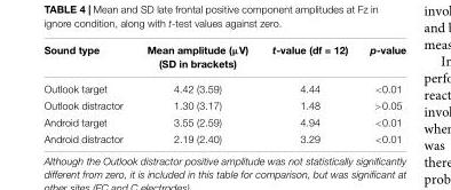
<table><thead><tr><td>Sound type</td><td>Mean amplitude (µV) (SD in brackets)</td><td>t-value (df = 12)</td><td>p-value</td></tr></thead><tbody><tr><td>Outlook target</td><td>4.42 (3.59)</td><td>4.44</td><td>&lt;0.01</td></tr><tr><td>Outlook distractor</td><td>1.30 (3.17)</td><td>1.48</td><td>&gt;0.05</td></tr><tr><td>Android target</td><td>3.55 (2.59)</td><td>4.94</td><td>&lt;0.01</td></tr><tr><td>Android distractor</td><td>2.19 (2.40)</td><td>3.29</td><td>&lt;0.01</td></tr></tbody></table>